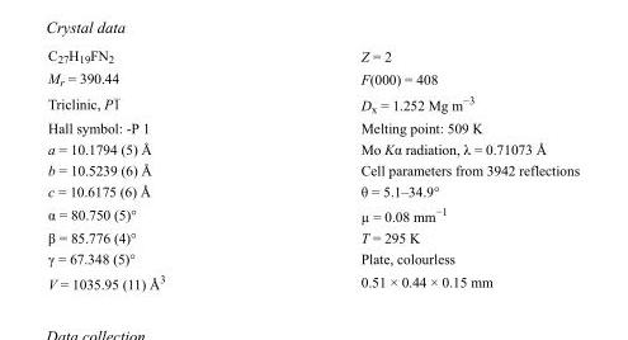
<table><tbody><tr><td>C<sub>27</sub>H<sub>19</sub>FN<sub>2</sub></td><td>Z = 2</td></tr><tr><td>M<sub>r</sub> = 390.44</td><td>F(000) = 408</td></tr><tr><td>Triclinic, P1</td><td>D<sub>x</sub> = 1.252 Mg m<sup>−3</sup></td></tr><tr><td>Hall symbol: -P 1</td><td>Melting point: 509 K</td></tr><tr><td>a = 10.1794 (5) Å</td><td>Mo Kα radiation, λ = 0.71073 Å</td></tr><tr><td>b = 10.5239 (6) Å</td><td>Cell parameters from 3942 reflections</td></tr><tr><td>c = 10.6175 (6) Å</td><td>θ = 5.1–34.9°</td></tr><tr><td>α = 80.750 (5)°</td><td>µ = 0.08 mm<sup>−1</sup></td></tr><tr><td>β = 85.776 (4)°</td><td>T = 295 K</td></tr><tr><td>γ = 67.348 (5)°</td><td>Plate, colourless</td></tr><tr><td>V = 1035.95 (11) Å<sup>3</sup></td><td>0.51 × 0.44 × 0.15 mm</td></tr></tbody></table>